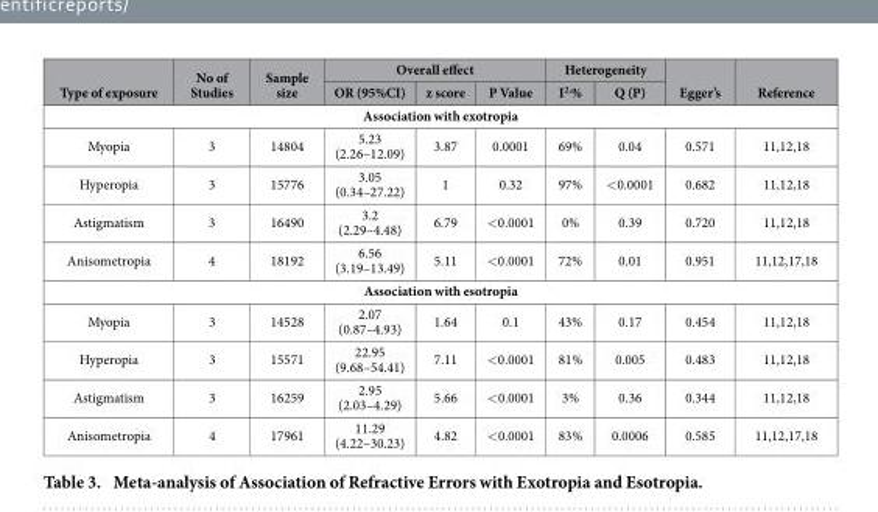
<table><thead><tr><td rowspan="2">Type of exposure</td><td rowspan="2">No of Studies</td><td rowspan="2">Sample size</td><td colspan="3">Overall effect</td><td colspan="2">Heterogeneity</td><td rowspan="2">Egger’s</td><td rowspan="2">Reference</td></tr><tr><td>OR (95%CI)</td><td>z score</td><td>P Value</td><td>I<sup>2,</sup>%</td><td>Q (P)</td></tr></thead><tbody><tr><td colspan="10">Association with exotropia</td></tr><tr><td>Myopia</td><td>3</td><td>14804</td><td>5.23 (2.26–12.09)</td><td>3.87</td><td>0.0001</td><td>69%</td><td>0.04</td><td>0.571</td><td>11,12,18</td></tr><tr><td>Hyperopia</td><td>3</td><td>15776</td><td>3.05 (0.34–27.22)</td><td>1</td><td>0.32</td><td>97%</td><td>&lt; 0.0001</td><td>0.682</td><td>11,12,18</td></tr><tr><td>Astigmatism</td><td>3</td><td>16490</td><td>3.2 (2.29–4.48)</td><td>6.79</td><td>&lt; 0.0001</td><td>0%</td><td>0.39</td><td>0.720</td><td>11,12,18</td></tr><tr><td>Anisometropia</td><td>4</td><td>18192</td><td>6.56 (3.19–13.49)</td><td>5.11</td><td>&lt; 0.0001</td><td>72%</td><td>0.01</td><td>0.951</td><td>11,12,17,18</td></tr><tr><td colspan="10">Association with esotropia</td></tr><tr><td>Myopia</td><td>3</td><td>14528</td><td>2.07 (0.87–4.93)</td><td>1.64</td><td>0.1</td><td>43%</td><td>0.17</td><td>0.454</td><td>11,12,18</td></tr><tr><td>Hyperopia</td><td>3</td><td>15571</td><td>22.95 (9.68–54.41)</td><td>7.11</td><td>&lt; 0.0001</td><td>81%</td><td>0.005</td><td>0.483</td><td>11,12,18</td></tr><tr><td>Astigmatism</td><td>3</td><td>16259</td><td>2.95 (2.03–4.29)</td><td>5.66</td><td>&lt; 0.0001</td><td>3%</td><td>0.36</td><td>0.344</td><td>11,12,18</td></tr><tr><td>Anisometropia</td><td>4</td><td>17961</td><td>11.29 (4.22–30.23)</td><td>4.82</td><td>&lt; 0.0001</td><td>83%</td><td>0.0006</td><td>0.585</td><td>11,12,17,18</td></tr></tbody></table>